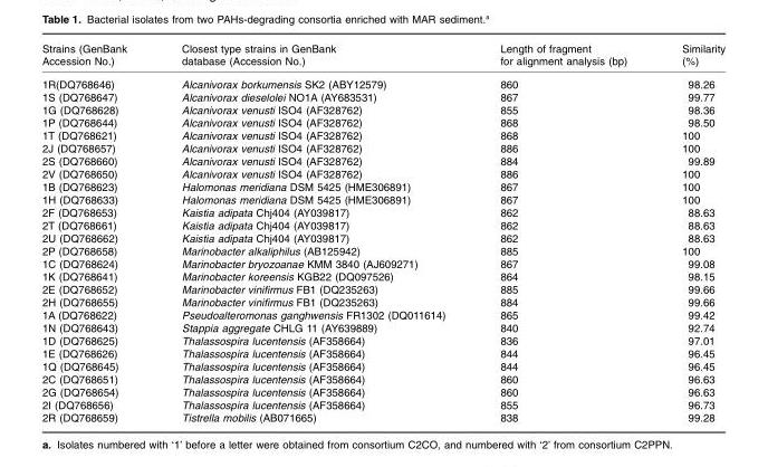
<table><thead><tr><td>Strains (GenBank Accession No.)</td><td>Closest type strains in GenBank database (Accession No.)</td><td>Length of fragment for alignment analysis (bp)</td><td>Similarity (%)</td></tr></thead><tbody><tr><td>1R(DQ768646)</td><td>Alcanivorax borkumensis SK2 (ABY12579)</td><td>860</td><td>98.26</td></tr><tr><td>1S (DQ768647)</td><td>Alcanivorax dieselolei NO1A (AY683531)</td><td>867</td><td>99.77</td></tr><tr><td>1G (DQ768628)</td><td>Alcanivorax venusti ISO4 (AF328762)</td><td>855</td><td>98.36</td></tr><tr><td>1P (DQ768644)</td><td>Alcanivorax venusti ISO4 (AF328762)</td><td>868</td><td>98.50</td></tr><tr><td>1T (DQ768621)</td><td>Alcanivorax venusti ISO4 (AF328762)</td><td>868</td><td>100</td></tr><tr><td>2J (DQ768657)</td><td>Alcanivorax venusti ISO4 (AF328762)</td><td>886</td><td>100</td></tr><tr><td>2S (DQ768660)</td><td>Alcanivorax venusti ISO4 (AF328762)</td><td>884</td><td>99.89</td></tr><tr><td>2V (DQ768650)</td><td>Alcanivorax venusti ISO4 (AF328762)</td><td>886</td><td>100</td></tr><tr><td>1B (DQ768623)</td><td>Halomonas meridiana DSM 5425 (HME306891)</td><td>867</td><td>100</td></tr><tr><td>1H (DQ768633)</td><td>Halomonas meridiana DSM 5425 (HME306891)</td><td>867</td><td>100</td></tr><tr><td>2F (DQ768653)</td><td>Kaistia adipata Chj404 (AY039817)</td><td>862</td><td>88.63</td></tr><tr><td>2T (DQ768661)</td><td>Kaistia adipata Chj404 (AY039817)</td><td>862</td><td>88.63</td></tr><tr><td>2U (DQ768662)</td><td>Kaistia adipata Chj404 (AY039817)</td><td>862</td><td>88.63</td></tr><tr><td>2P (DQ768658)</td><td>Marinobacter alkaliphilus (AB125942)</td><td>885</td><td>100</td></tr><tr><td>1C (DQ768624)</td><td>Marinobacter bryozoanae KMM 3840 (AJ609271)</td><td>867</td><td>99.08</td></tr><tr><td>1K (DQ768641)</td><td>Marinobacter koreensis KGB22 (DQ097526)</td><td>864</td><td>98.15</td></tr><tr><td>2E (DQ768652)</td><td>Marinobacter vinifirmus FB1 (DQ235263)</td><td>885</td><td>99.66</td></tr><tr><td>2H (DQ768655)</td><td>Marinobacter vinifirmus FB1 (DQ235263)</td><td>884</td><td>99.66</td></tr><tr><td>1A (DQ768622)</td><td>Pseudoalteromonas ganghwensis FR1302 (DQ011614)</td><td>865</td><td>99.42</td></tr><tr><td>1N (DQ768643)</td><td>Stappia aggregate CHLG 11 (AY639889)</td><td>840</td><td>92.74</td></tr><tr><td>1D (DQ768625)</td><td>Thalassospira lucentensis (AF358664)</td><td>836</td><td>97.01</td></tr><tr><td>1E (DQ768626)</td><td>Thalassospira lucentensis (AF358664)</td><td>844</td><td>96.45</td></tr><tr><td>1Q (DQ768645)</td><td>Thalassospira lucentensis (AF358664)</td><td>844</td><td>96.45</td></tr><tr><td>2C (DQ768651)</td><td>Thalassospira lucentensis (AF358664)</td><td>860</td><td>96.63</td></tr><tr><td>2G (DQ768654)</td><td>Thalassospira lucentensis (AF358664)</td><td>860</td><td>96.63</td></tr><tr><td>2I (DQ768656)</td><td>Thalassospira lucentensis (AF358664)</td><td>855</td><td>96.73</td></tr><tr><td>2R (DQ768659)</td><td>Tistrella mobilis (AB071665)</td><td>838</td><td>99.28</td></tr></tbody></table>